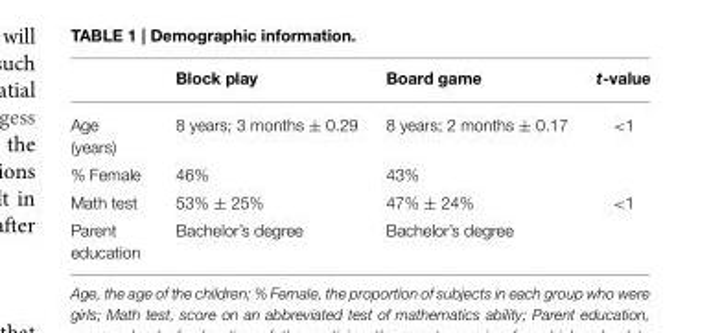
<table><thead><tr><td></td><td>Block play</td><td>Board game</td><td>t-value</td></tr></thead><tbody><tr><td>Age (years)</td><td>8 years; 3 months ± 0.29</td><td>8 years; 2 months ± 0.17</td><td>&lt;1</td></tr><tr><td>% Female</td><td>46%</td><td>43%</td><td></td></tr><tr><td>Math test</td><td>53% ± 25%</td><td>47% ± 24%</td><td>&lt;1</td></tr><tr><td>Parent education</td><td>Bachelor’s degree</td><td>Bachelor’s degree</td><td></td></tr></tbody></table>